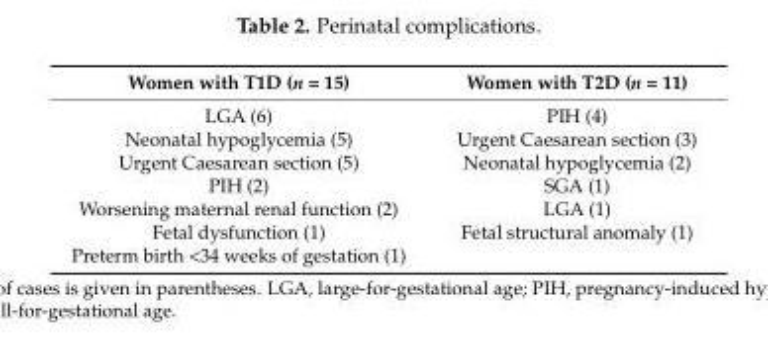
<table><thead><tr><td>Women with T1D (n = 15)</td><td>Women with T2D (n = 11)</td></tr></thead><tbody><tr><td>LGA (6)</td><td>PIH (4)</td></tr><tr><td>Neonatal hypoglycemia (5)</td><td>Urgent Caesarean section (3)</td></tr><tr><td>Urgent Caesarean section (5)</td><td>Neonatal hypoglycemia (2)</td></tr><tr><td>PIH (2)</td><td>SGA (1)</td></tr><tr><td>Worsening maternal renal function (2)</td><td>LGA (1)</td></tr><tr><td>Fetal dysfunction (1)</td><td>Fetal structural anomaly (1)</td></tr><tr><td>Preterm birth &lt;34 weeks of gestation (1)</td><td></td></tr></tbody></table>